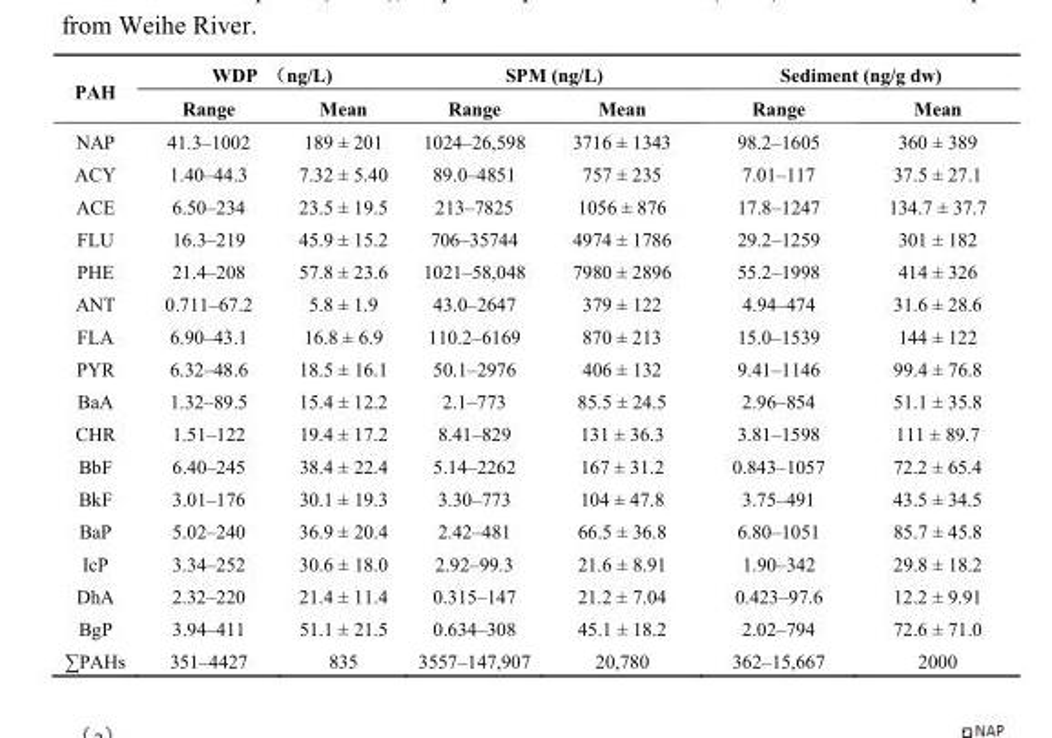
<table><thead><tr><td rowspan="2">PAH</td><td colspan="2">WDP （ng/L)</td><td colspan="2">SPM (ng/L)</td><td colspan="2">Sediment (ng/g dw)</td></tr><tr><td>Range</td><td>Mean</td><td>Range</td><td>Mean</td><td>Range</td><td>Mean</td></tr></thead><tbody><tr><td>NAP</td><td>41.3–1002</td><td>189 ± 201</td><td>1024–26,598</td><td>3716 ± 1343</td><td>98.2–1605</td><td>360 ± 389</td></tr><tr><td>ACY</td><td>1.40–44.3</td><td>7.32 ± 5.40</td><td>89.0–4851</td><td>757 ± 235</td><td>7.01–117</td><td>37.5 ± 27.1</td></tr><tr><td>ACE</td><td>6.50–234</td><td>23.5 ± 19.5</td><td>213–7825</td><td>1056 ± 876</td><td>17.8–1247</td><td>134.7 ± 37.7</td></tr><tr><td>FLU</td><td>16.3–219</td><td>45.9 ± 15.2</td><td>706–35744</td><td>4974 ± 1786</td><td>29.2–1259</td><td>301 ± 182</td></tr><tr><td>PHE</td><td>21.4–208</td><td>57.8 ± 23.6</td><td>1021–58,048</td><td>7980 ± 2896</td><td>55.2–1998</td><td>414 ± 326</td></tr><tr><td>ANT</td><td>0.711–67.2</td><td>5.8 ± 1.9</td><td>43.0–2647</td><td>379 ± 122</td><td>4.94–474</td><td>31.6 ± 28.6</td></tr><tr><td>FLA</td><td>6.90–43.1</td><td>16.8 ± 6.9</td><td>110.2–6169</td><td>870 ± 213</td><td>15.0–1539</td><td>144 ± 122</td></tr><tr><td>PYR</td><td>6.32–48.6</td><td>18.5 ± 16.1</td><td>50.1–2976</td><td>406 ± 132</td><td>9.41–1146</td><td>99.4 ± 76.8</td></tr><tr><td>BaA</td><td>1.32–89.5</td><td>15.4 ± 12.2</td><td>2.1–773</td><td>85.5 ± 24.5</td><td>2.96–854</td><td>51.1 ± 35.8</td></tr><tr><td>CHR</td><td>1.51–122</td><td>19.4 ± 17.2</td><td>8.41–829</td><td>131 ± 36.3</td><td>3.81–1598</td><td>111 ± 89.7</td></tr><tr><td>BbF</td><td>6.40–245</td><td>38.4 ± 22.4</td><td>5.14–2262</td><td>167 ± 31.2</td><td>0.843–1057</td><td>72.2 ± 65.4</td></tr><tr><td>BkF</td><td>3.01–176</td><td>30.1 ± 19.3</td><td>3.30–773</td><td>104 ± 47.8</td><td>3.75–491</td><td>43.5 ± 34.5</td></tr><tr><td>BaP</td><td>5.02–240</td><td>36.9 ± 20.4</td><td>2.42–481</td><td>66.5 ± 36.8</td><td>6.80–1051</td><td>85.7 ± 45.8</td></tr><tr><td>IcP</td><td>3.34–252</td><td>30.6 ± 18.0</td><td>2.92–99.3</td><td>21.6 ± 8.91</td><td>1.90–342</td><td>29.8 ± 18.2</td></tr><tr><td>DhA</td><td>2.32–220</td><td>21.4 ± 11.4</td><td>0.315–147</td><td>21.2 ± 7.04</td><td>0.423–97.6</td><td>12.2 ± 9.91</td></tr><tr><td>BgP</td><td>3.94–411</td><td>51.1 ± 21.5</td><td>0.634–308</td><td>45.1 ± 18.2</td><td>2.02–794</td><td>72.6 ± 71.0</td></tr><tr><td>∑PAHs</td><td>351–4427</td><td>835</td><td>3557–147,907</td><td>20,780</td><td>362–15,667</td><td>2000</td></tr></tbody></table>